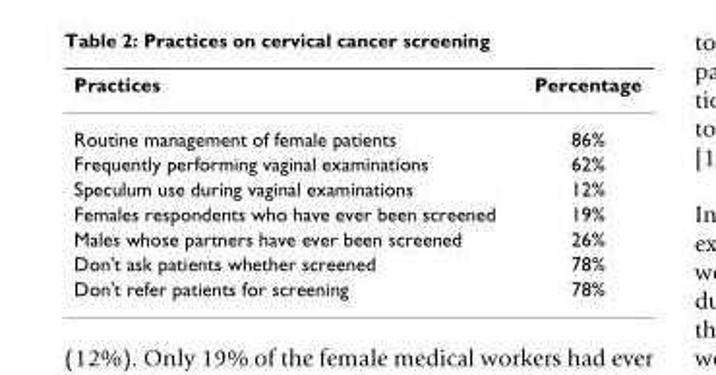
<table><thead><tr><td>Practices</td><td>Percentage</td></tr></thead><tbody><tr><td>Routine management of female patients</td><td>86%</td></tr><tr><td>Frequently performing vaginal examinations</td><td>62%</td></tr><tr><td>Speculum use during vaginal examinations</td><td>12%</td></tr><tr><td>Females respondents who have ever been screened</td><td>19%</td></tr><tr><td>Males whose partners have ever been screened</td><td>26%</td></tr><tr><td>Don&#x27;t ask patients whether screened</td><td>78%</td></tr><tr><td>Don&#x27;t refer patients for screening</td><td>78%</td></tr></tbody></table>